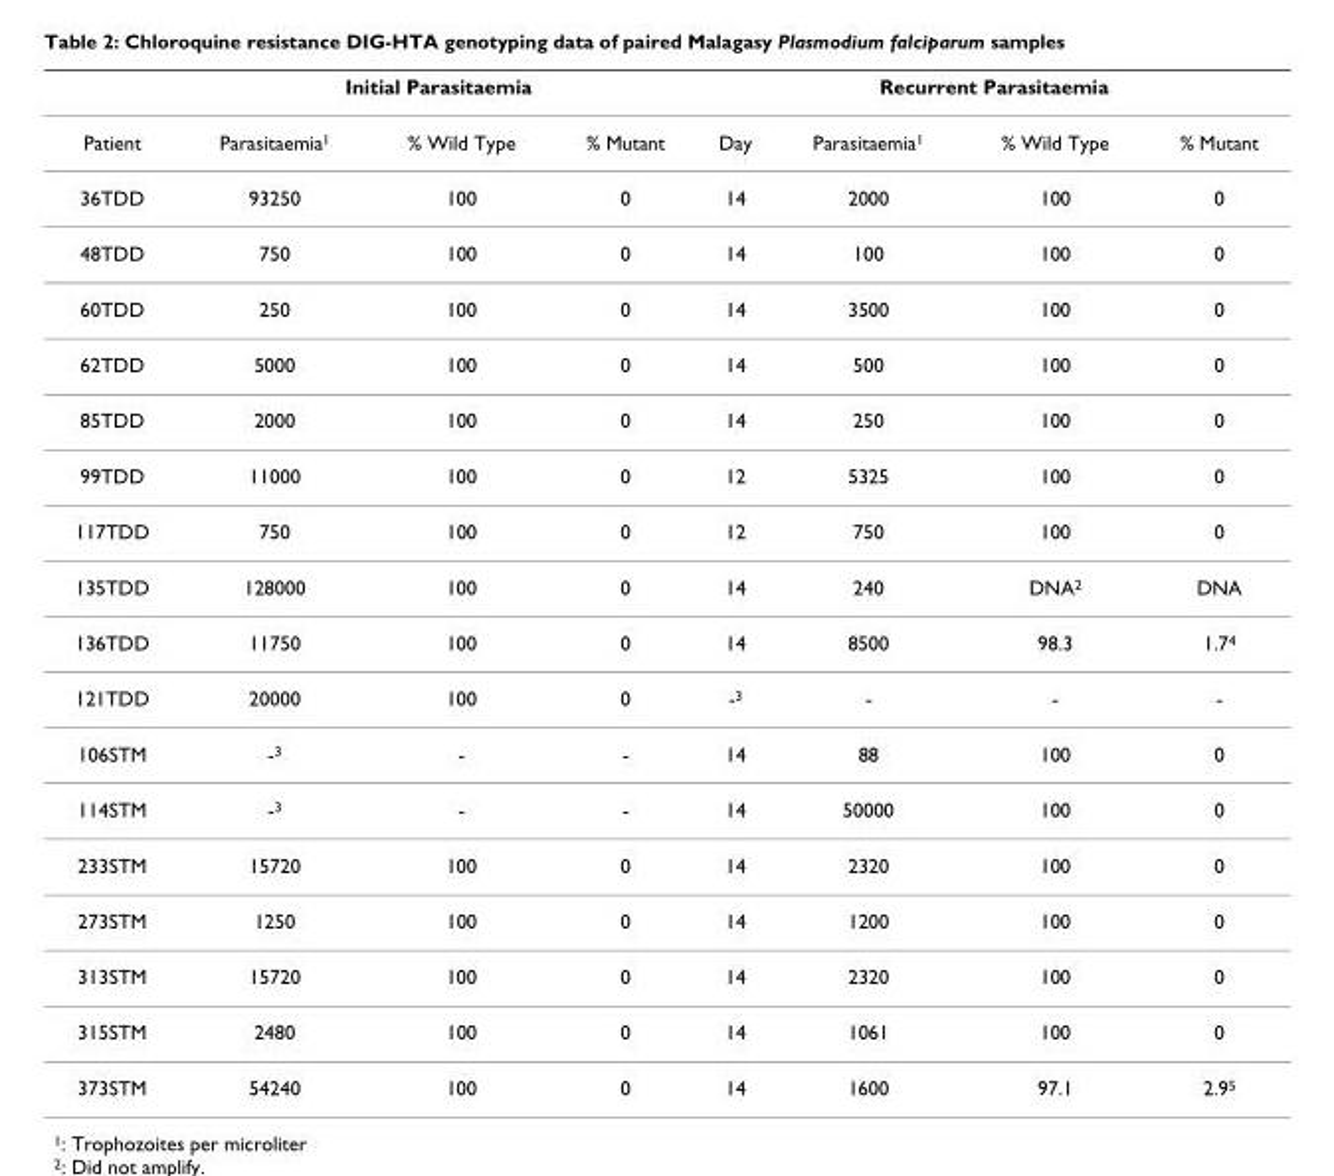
<table><thead><tr><td rowspan="2">Patient</td><td colspan="3">Initial Parasitaemia</td><td colspan="4">Recurrent Parasitaemia</td></tr><tr><td>Parasitaemia<sup>1</sup></td><td>% Wild Type</td><td>% Mutant</td><td>Day</td><td>Parasitaemia<sup>1</sup></td><td>% Wild Type</td><td>% Mutant</td></tr></thead><tbody><tr><td>36TDD</td><td>93250</td><td>100</td><td>0</td><td>14</td><td>2000</td><td>100</td><td>0</td></tr><tr><td>48TDD</td><td>750</td><td>100</td><td>0</td><td>14</td><td>100</td><td>100</td><td>0</td></tr><tr><td>60TDD</td><td>250</td><td>100</td><td>0</td><td>14</td><td>3500</td><td>100</td><td>0</td></tr><tr><td>62TDD</td><td>5000</td><td>100</td><td>0</td><td>14</td><td>500</td><td>100</td><td>0</td></tr><tr><td>85TDD</td><td>2000</td><td>100</td><td>0</td><td>14</td><td>250</td><td>100</td><td>0</td></tr><tr><td>99TDD</td><td>11000</td><td>100</td><td>0</td><td>12</td><td>5325</td><td>100</td><td>0</td></tr><tr><td>117TDD</td><td>750</td><td>100</td><td>0</td><td>12</td><td>750</td><td>100</td><td>0</td></tr><tr><td>135TDD</td><td>128000</td><td>100</td><td>0</td><td>14</td><td>240</td><td>DNA<sup>2</sup></td><td>DNA</td></tr><tr><td>136TDD</td><td>11750</td><td>100</td><td>0</td><td>14</td><td>8500</td><td>98.3</td><td>1.7<sup>4</sup></td></tr><tr><td>121TDD</td><td>20000</td><td>100</td><td>0</td><td>-<sup>3</sup></td><td>-</td><td>-</td><td>-</td></tr><tr><td>106STM</td><td>-<sup>3</sup></td><td>-</td><td>-</td><td>14</td><td>88</td><td>100</td><td>0</td></tr><tr><td>114STM</td><td>-<sup>3</sup></td><td>-</td><td>-</td><td>14</td><td>50000</td><td>100</td><td>0</td></tr><tr><td>233STM</td><td>15720</td><td>100</td><td>0</td><td>14</td><td>2320</td><td>100</td><td>0</td></tr><tr><td>273STM</td><td>1250</td><td>100</td><td>0</td><td>14</td><td>1200</td><td>100</td><td>0</td></tr><tr><td>313STM</td><td>15720</td><td>100</td><td>0</td><td>14</td><td>2320</td><td>100</td><td>0</td></tr><tr><td>315STM</td><td>2480</td><td>100</td><td>0</td><td>14</td><td>1061</td><td>100</td><td>0</td></tr><tr><td>373STM</td><td>54240</td><td>100</td><td>0</td><td>14</td><td>1600</td><td>97.1</td><td>2.9<sup>5</sup></td></tr></tbody></table>